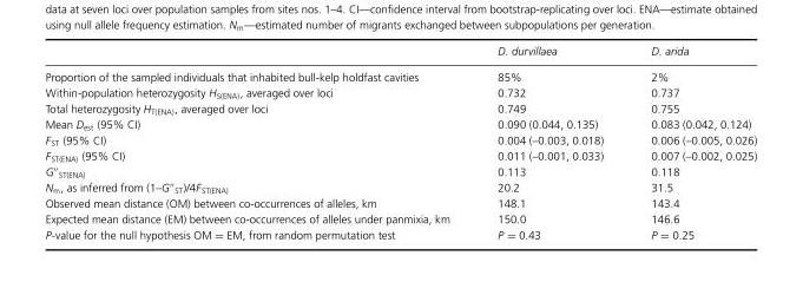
<table><thead><tr><td></td><td>D. durvillaea</td><td>D. arida</td></tr></thead><tbody><tr><td>Proportion of the sampled individuals that inhabited bull-kelp holdfast cavities</td><td>85%</td><td>2%</td></tr><tr><td>Within-population heterozygosity H<sub>S(ENA)</sub>, averaged over loci</td><td>0.732</td><td>0.737</td></tr><tr><td>Total heterozygosity H<sub>T(ENA)</sub>, averaged over loci</td><td>0.749</td><td>0.755</td></tr><tr><td>Mean D<sub>est</sub> (95% CI)</td><td>0.090 (0.044, 0.135)</td><td>0.083 (0.042, 0.124)</td></tr><tr><td>F<sub>ST</sub> (95% CI)</td><td>0.004 (–0.003, 0.018)</td><td>0.006 (–0.005, 0.026)</td></tr><tr><td>F<sub>ST(ENA)</sub> (95% CI)</td><td>0.011 (–0.001, 0.033)</td><td>0.007 (–0.002, 0.025)</td></tr><tr><td>G′′<sub>ST(ENA)</sub></td><td>0.113</td><td>0.118</td></tr><tr><td>N<sub>m</sub>, as inferred from (1–G′′<sub>ST</sub>)/4F<sub>ST(ENA)</sub></td><td>20.2</td><td>31.5</td></tr><tr><td>Observed mean distance (OM) between co-occurrences of alleles, km</td><td>148.1</td><td>143.4</td></tr><tr><td>Expected mean distance (EM) between co-occurrences of alleles under panmixia, km</td><td>150.0</td><td>146.6</td></tr><tr><td>P-value for the null hypothesis OM = EM, from random permutation test</td><td>P = 0.43</td><td>P = 0.25</td></tr></tbody></table>